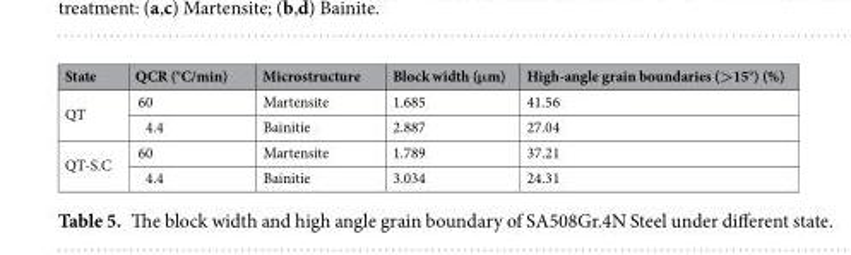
<table><thead><tr><td>State</td><td>QCR (°C/min)</td><td>Microstructure</td><td>Block width (μm)</td><td>High-angle grain boundaries (&gt;15°) (%)</td></tr></thead><tbody><tr><td rowspan="2">QT</td><td>60</td><td>Martensite</td><td>1.685</td><td>41.56</td></tr><tr><td>4.4</td><td>Bainitie</td><td>2.887</td><td>27.04</td></tr><tr><td rowspan="2">QT-S.C</td><td>60</td><td>Martensite</td><td>1.789</td><td>37.21</td></tr><tr><td>4.4</td><td>Bainitie</td><td>3.034</td><td>24.31</td></tr></tbody></table>